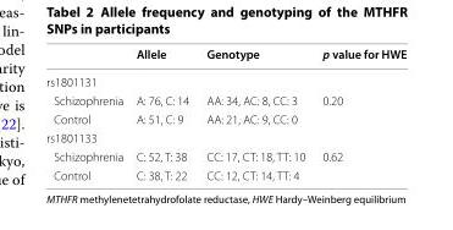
<table><thead><tr><td></td><td>Allele</td><td>Genotype</td><td>p value for HWE</td></tr></thead><tbody><tr><td colspan="4">rs1801131</td></tr><tr><td>Schizophrenia</td><td>A: 76, C: 14</td><td>AA: 34, AC: 8, CC: 3</td><td>0.20</td></tr><tr><td>Control</td><td>A: 51, C: 9</td><td>AA: 21, AC: 9, CC: 0</td><td></td></tr><tr><td colspan="4">rs1801133</td></tr><tr><td>Schizophrenia</td><td>C: 52, T: 38</td><td>CC: 17, CT: 18, TT: 10</td><td>0.62</td></tr><tr><td>Control</td><td>C: 38, T: 22</td><td>CC: 12, CT: 14, TT: 4</td><td></td></tr></tbody></table>